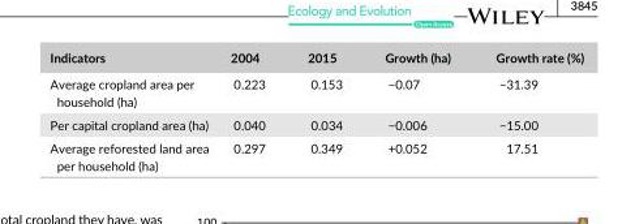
<table><thead><tr><td>Indicators</td><td>2004</td><td>2015</td><td>Growth (ha)</td><td>Growth rate (%)</td></tr></thead><tbody><tr><td>Average cropland area per household (ha)</td><td>0.223</td><td>0.153</td><td>−0.07</td><td>−31.39</td></tr><tr><td>Per capital cropland area (ha)</td><td>0.040</td><td>0.034</td><td>−0.006</td><td>−15.00</td></tr><tr><td>Average reforested land area per household (ha)</td><td>0.297</td><td>0.349</td><td>+0.052</td><td>17.51</td></tr></tbody></table>